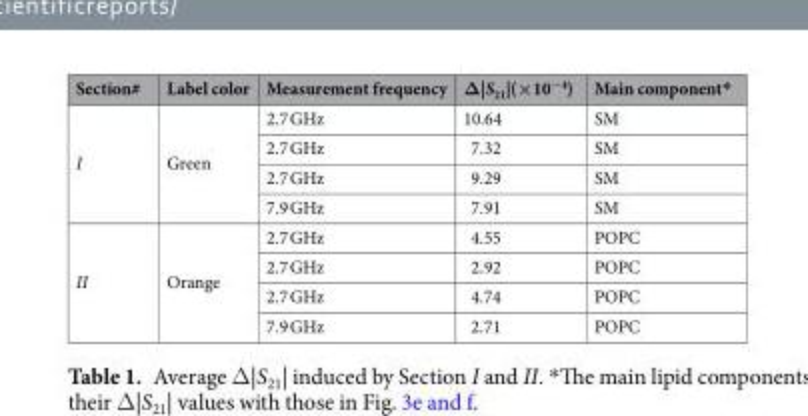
<table><thead><tr><td>Section#</td><td>Label color</td><td>Measurement frequency</td><td>Δ|S<sub>21</sub>|(×10<sup>−4</sup>)</td><td>Main component*</td></tr></thead><tbody><tr><td rowspan="4">I</td><td rowspan="4">Green</td><td>2.7 GHz</td><td>10.64</td><td>SM</td></tr><tr><td>2.7 GHz</td><td>7.32</td><td>SM</td></tr><tr><td>2.7 GHz</td><td>9.29</td><td>SM</td></tr><tr><td>7.9 GHz</td><td>7.91</td><td>SM</td></tr><tr><td rowspan="4">II</td><td rowspan="4">Orange</td><td>2.7 GHz</td><td>4.55</td><td>POPC</td></tr><tr><td>2.7 GHz</td><td>2.92</td><td>POPC</td></tr><tr><td>2.7 GHz</td><td>4.74</td><td>POPC</td></tr><tr><td>7.9 GHz</td><td>2.71</td><td>POPC</td></tr></tbody></table>